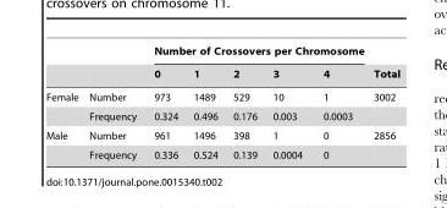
<table><thead><tr><td rowspan="2"></td><td rowspan="2"></td><td colspan="5">Number of Crossovers per Chromosome</td><td rowspan="2">Total</td></tr><tr><td>0</td><td>1</td><td>2</td><td>3</td><td>4</td></tr></thead><tbody><tr><td rowspan="2">Female</td><td>Number</td><td>973</td><td>1489</td><td>529</td><td>10</td><td>1</td><td>3002</td></tr><tr><td>Frequency</td><td>0.324</td><td>0.496</td><td>0.176</td><td>0.003</td><td>0.0003</td><td></td></tr><tr><td rowspan="2">Male</td><td>Number</td><td>961</td><td>1496</td><td>398</td><td>1</td><td>0</td><td>2856</td></tr><tr><td>Frequency</td><td>0.336</td><td>0.524</td><td>0.139</td><td>0.0004</td><td>0</td><td></td></tr></tbody></table>